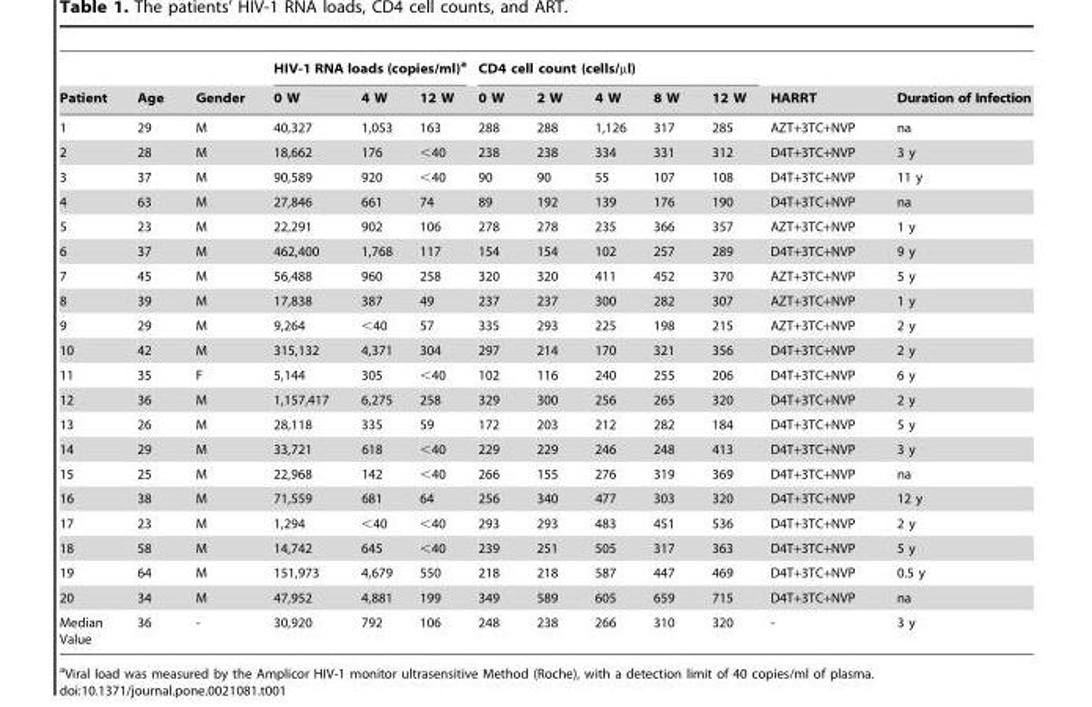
<table><thead><tr><td rowspan="2">Patient</td><td rowspan="2">Age</td><td rowspan="2">Gender</td><td colspan="3">HIV-1 RNA loads (copies/ml)<sup>a</sup></td><td colspan="5">CD4 cell count (cells/µl)</td><td rowspan="2">HARRT</td><td rowspan="2">Duration of Infection</td></tr><tr><td>0 W</td><td>4 W</td><td>12 W</td><td>0 W</td><td>2 W</td><td>4 W</td><td>8 W</td><td>12 W</td></tr></thead><tbody><tr><td>1</td><td>29</td><td>M</td><td>40,327</td><td>1,053</td><td>163</td><td>288</td><td>288</td><td>1,126</td><td>317</td><td>285</td><td>AZT+3TC+NVP</td><td>na</td></tr><tr><td>2</td><td>28</td><td>M</td><td>18,662</td><td>176</td><td>&lt;40</td><td>238</td><td>238</td><td>334</td><td>331</td><td>312</td><td>D4T+3TC+NVP</td><td>3 y</td></tr><tr><td>3</td><td>37</td><td>M</td><td>90,589</td><td>920</td><td>&lt;40</td><td>90</td><td>90</td><td>55</td><td>107</td><td>108</td><td>D4T+3TC+NVP</td><td>11 y</td></tr><tr><td>4</td><td>63</td><td>M</td><td>27,846</td><td>661</td><td>74</td><td>89</td><td>192</td><td>139</td><td>176</td><td>190</td><td>D4T+3TC+NVP</td><td>na</td></tr><tr><td>5</td><td>23</td><td>M</td><td>22,291</td><td>902</td><td>106</td><td>278</td><td>278</td><td>235</td><td>366</td><td>357</td><td>AZT+3TC+NVP</td><td>1 y</td></tr><tr><td>6</td><td>37</td><td>M</td><td>462,400</td><td>1,768</td><td>117</td><td>154</td><td>154</td><td>102</td><td>257</td><td>289</td><td>D4T+3TC+NVP</td><td>9 y</td></tr><tr><td>7</td><td>45</td><td>M</td><td>56,488</td><td>960</td><td>258</td><td>320</td><td>320</td><td>411</td><td>452</td><td>370</td><td>AZT+3TC+NVP</td><td>5 y</td></tr><tr><td>8</td><td>39</td><td>M</td><td>17,838</td><td>387</td><td>49</td><td>237</td><td>237</td><td>300</td><td>282</td><td>307</td><td>AZT+3TC+NVP</td><td>1 y</td></tr><tr><td>9</td><td>29</td><td>M</td><td>9,264</td><td>&lt;40</td><td>57</td><td>335</td><td>293</td><td>225</td><td>198</td><td>215</td><td>AZT+3TC+NVP</td><td>2 y</td></tr><tr><td>10</td><td>42</td><td>M</td><td>315,132</td><td>4,371</td><td>304</td><td>297</td><td>214</td><td>170</td><td>321</td><td>356</td><td>D4T+3TC+NVP</td><td>2 y</td></tr><tr><td>11</td><td>35</td><td>F</td><td>5,144</td><td>305</td><td>&lt;40</td><td>102</td><td>116</td><td>240</td><td>255</td><td>206</td><td>D4T+3TC+NVP</td><td>6 y</td></tr><tr><td>12</td><td>36</td><td>M</td><td>1,157,417</td><td>6,275</td><td>258</td><td>329</td><td>300</td><td>256</td><td>265</td><td>320</td><td>D4T+3TC+NVP</td><td>2 y</td></tr><tr><td>13</td><td>26</td><td>M</td><td>28,118</td><td>335</td><td>59</td><td>172</td><td>203</td><td>212</td><td>282</td><td>184</td><td>D4T+3TC+NVP</td><td>5 y</td></tr><tr><td>14</td><td>29</td><td>M</td><td>33,721</td><td>618</td><td>&lt;40</td><td>229</td><td>229</td><td>246</td><td>248</td><td>413</td><td>D4T+3TC+NVP</td><td>3 y</td></tr><tr><td>15</td><td>25</td><td>M</td><td>22,968</td><td>142</td><td>&lt;40</td><td>266</td><td>155</td><td>276</td><td>319</td><td>369</td><td>D4T+3TC+NVP</td><td>na</td></tr><tr><td>16</td><td>38</td><td>M</td><td>71,559</td><td>681</td><td>64</td><td>256</td><td>340</td><td>477</td><td>303</td><td>320</td><td>D4T+3TC+NVP</td><td>12 y</td></tr><tr><td>17</td><td>23</td><td>M</td><td>1,294</td><td>&lt;40</td><td>&lt;40</td><td>293</td><td>293</td><td>483</td><td>451</td><td>536</td><td>D4T+3TC+NVP</td><td>2 y</td></tr><tr><td>18</td><td>58</td><td>M</td><td>14,742</td><td>645</td><td>&lt;40</td><td>239</td><td>251</td><td>505</td><td>317</td><td>363</td><td>D4T+3TC+NVP</td><td>5 y</td></tr><tr><td>19</td><td>64</td><td>M</td><td>151,973</td><td>4,679</td><td>550</td><td>218</td><td>218</td><td>587</td><td>447</td><td>469</td><td>D4T+3TC+NVP</td><td>0.5 y</td></tr><tr><td>20</td><td>34</td><td>M</td><td>47,952</td><td>4,881</td><td>199</td><td>349</td><td>589</td><td>605</td><td>659</td><td>715</td><td>D4T+3TC+NVP</td><td>na</td></tr><tr><td>Median Value</td><td>36</td><td>-</td><td>30,920</td><td>792</td><td>106</td><td>248</td><td>238</td><td>266</td><td>310</td><td>320</td><td>-</td><td>3 y</td></tr></tbody></table>